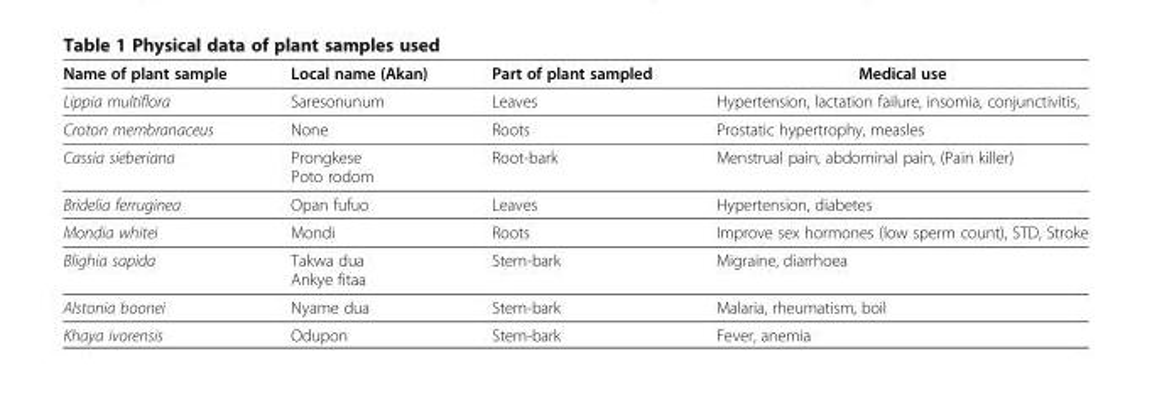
<table><thead><tr><td>Name of plant sample</td><td>Local name (Akan)</td><td>Part of plant sampled</td><td>Medical use</td></tr></thead><tbody><tr><td>Lippia multiflora</td><td>Saresonunum</td><td>Leaves</td><td>Hypertension, lactation failure, insomia, conjunctivitis,</td></tr><tr><td>Croton membranaceus</td><td>None</td><td>Roots</td><td>Prostatic hypertrophy, measles</td></tr><tr><td rowspan="2">Cassia sieberiana</td><td>Prongkese</td><td>Root-bark</td><td>Menstrual pain, abdominal pain, (Pain killer)</td></tr><tr><td>Poto rodom</td><td></td><td></td></tr><tr><td>Bridelia ferruginea</td><td>Opan fufuo</td><td>Leaves</td><td>Hypertension, diabetes</td></tr><tr><td>Mondia whitei</td><td>Mondi</td><td>Roots</td><td>Improve sex hormones (low sperm count), STD, Stroke</td></tr><tr><td rowspan="2">Blighia sapida</td><td>Takwa dua</td><td>Stem-bark</td><td>Migraine, diarrhoea</td></tr><tr><td>Ankye fitaa</td><td></td><td></td></tr><tr><td>Alstonia boonei</td><td>Nyame dua</td><td>Stem-bark</td><td>Malaria, rheumatism, boil</td></tr><tr><td>Khaya ivorensis</td><td>Odupon</td><td>Stem-bark</td><td>Fever, anemia</td></tr></tbody></table>